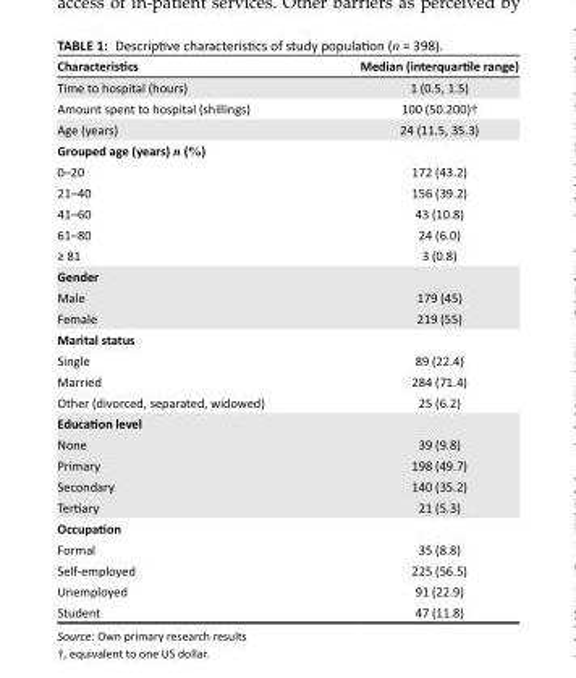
<table><thead><tr><td>Characteristics</td><td>Median (interquartile range)</td></tr></thead><tbody><tr><td>Time to hospital (hours)</td><td>1 (0.5, 1.5)</td></tr><tr><td>Amount spent to hospital (shillings)</td><td>100 (50.200)†</td></tr><tr><td>Age (years)</td><td>24 (11.5, 35.3)</td></tr><tr><td colspan="2">Grouped age (years) n (%)</td></tr><tr><td>0–20</td><td>172 (43.2)</td></tr><tr><td>21–40</td><td>156 (39.2)</td></tr><tr><td>41–60</td><td>43 (10.8)</td></tr><tr><td>61–80</td><td>24 (6.0)</td></tr><tr><td>≥ 81</td><td>3 (0.8)</td></tr><tr><td colspan="2">Gender</td></tr><tr><td>Male</td><td>179 (45)</td></tr><tr><td>Female</td><td>219 (55)</td></tr><tr><td colspan="2">Marital status</td></tr><tr><td>Single</td><td>89 (22.4)</td></tr><tr><td>Married</td><td>284 (71.4)</td></tr><tr><td>Other (divorced, separated, widowed)</td><td>25 (6.2)</td></tr><tr><td colspan="2">Education level</td></tr><tr><td>None</td><td>39 (9.8)</td></tr><tr><td>Primary</td><td>198 (49.7)</td></tr><tr><td>Secondary</td><td>140 (35.2)</td></tr><tr><td>Tertiary</td><td>21 (5.3)</td></tr><tr><td colspan="2">Occupation</td></tr><tr><td>Formal</td><td>35 (8.8)</td></tr><tr><td>Self-employed</td><td>225 (56.5)</td></tr><tr><td>Unemployed</td><td>91 (22.9)</td></tr><tr><td>Student</td><td>47 (11.8)</td></tr></tbody></table>